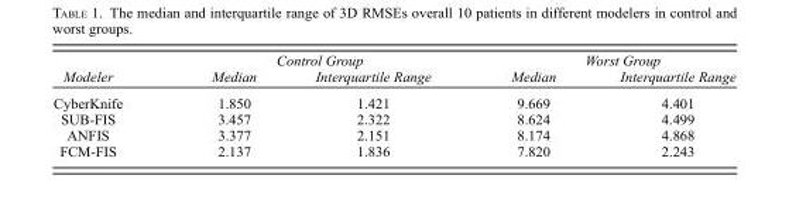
<table><thead><tr><td rowspan="2">Modeler</td><td colspan="2">Control Group</td><td colspan="2">Worst Group</td></tr><tr><td>Median</td><td>Interquartile Range</td><td>Median</td><td>Interquartile Range</td></tr></thead><tbody><tr><td>CyberKnife</td><td>1.850</td><td>1.421</td><td>9.669</td><td>4.401</td></tr><tr><td>SUB-FIS</td><td>3.457</td><td>2.322</td><td>8.624</td><td>4.499</td></tr><tr><td>ANFIS</td><td>3.377</td><td>2.151</td><td>8.174</td><td>4.868</td></tr><tr><td>FCM-FIS</td><td>2.137</td><td>1.836</td><td>7.820</td><td>2.243</td></tr></tbody></table>